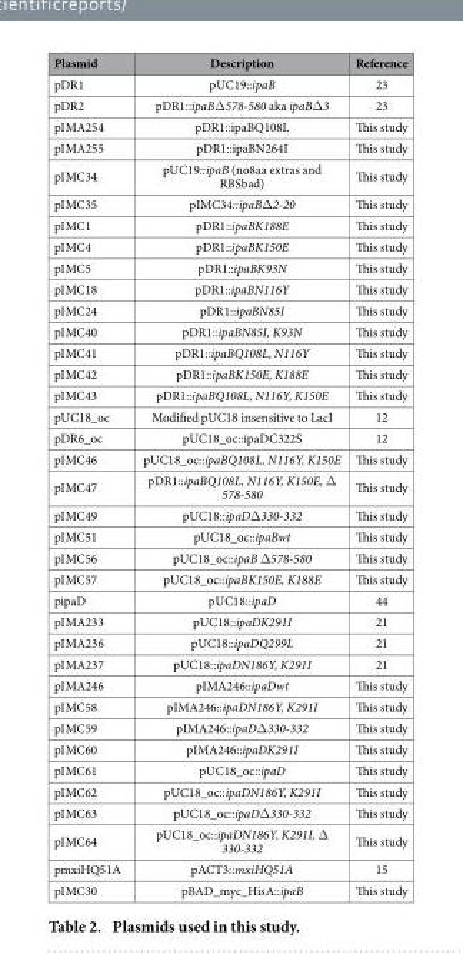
<table><thead><tr><td>Plasmid</td><td>Description</td><td>Reference</td></tr></thead><tbody><tr><td>pDR1</td><td>pUC19::ipaB</td><td>23</td></tr><tr><td>pDR2</td><td>pDR1::ipaBΔ 578-580 aka ipaBΔ 3</td><td>23</td></tr><tr><td>pIMA254</td><td>pDR1::ipaBQ108L</td><td>This study</td></tr><tr><td>pIMA255</td><td>pDR1::ipaBN264I</td><td>This study</td></tr><tr><td>pIMC34</td><td>pUC19::ipaB (no8aa extras and RBSbad)</td><td>This study</td></tr><tr><td>pIMC35</td><td>pIMC34::ipaBΔ 2-20</td><td>This study</td></tr><tr><td>pIMC1</td><td>pDR1::ipaBK188E</td><td>This study</td></tr><tr><td>pIMC4</td><td>pDR1::ipaBK150E</td><td>This study</td></tr><tr><td>pIMC5</td><td>pDR1::ipaBK93N</td><td>This study</td></tr><tr><td>pIMC18</td><td>pDR1::ipaBN116Y</td><td>This study</td></tr><tr><td>pIMC24</td><td>pDR1::ipaBN85I</td><td>This study</td></tr><tr><td>pIMC40</td><td>pDR1::ipaBN85I, K93N</td><td>This study</td></tr><tr><td>pIMC41</td><td>pDR1::ipaBQ108L, N116Y</td><td>This study</td></tr><tr><td>pIMC42</td><td>pDR1::ipaBK150E, K188E</td><td>This study</td></tr><tr><td>pIMC43</td><td>pDR1::ipaBQ108L, N116Y, K150E</td><td>This study</td></tr><tr><td>pUC18_oc</td><td>Modified pUC18 insensitive to LacI</td><td>12</td></tr><tr><td>pDR6_oc</td><td>pUC18_oc::ipaDC322S</td><td>12</td></tr><tr><td>pIMC46</td><td>pUC18_oc::ipaBQ108L, N116Y, K150E</td><td>This study</td></tr><tr><td>pIMC47</td><td>pDR1::ipaBQ108L, N116Y, K150E, Δ 578-580</td><td>This study</td></tr><tr><td>pIMC49</td><td>pUC18::ipaDΔ 330-332</td><td>This study</td></tr><tr><td>pIMC51</td><td>pUC18_oc::ipaBwt</td><td>This study</td></tr><tr><td>pIMC56</td><td>pUC18_oc::ipaB Δ 578-580</td><td>This study</td></tr><tr><td>pIMC57</td><td>pUC18_oc::ipaBK150E, K188E</td><td>This study</td></tr><tr><td>pipaD</td><td>pUC18::ipaD</td><td>44</td></tr><tr><td>pIMA233</td><td>pUC18::ipaDK291I</td><td>21</td></tr><tr><td>pIMA236</td><td>pUC18::ipaDQ299L</td><td>21</td></tr><tr><td>pIMA237</td><td>pUC18::ipaDN186Y, K291I</td><td>21</td></tr><tr><td>pIMA246</td><td>pIMA246::ipaDwt</td><td>This study</td></tr><tr><td>pIMC58</td><td>pIMA246::ipaDN186Y, K291I</td><td>This study</td></tr><tr><td>pIMC59</td><td>pIMA246::ipaDΔ 330-332</td><td>This study</td></tr><tr><td>pIMC60</td><td>pIMA246::ipaDK291I</td><td>This study</td></tr><tr><td>pIMC61</td><td>pUC18_oc::ipaD</td><td>This study</td></tr><tr><td>pIMC62</td><td>pUC18_oc::ipaDN186Y, K291I</td><td>This study</td></tr><tr><td>pIMC63</td><td>pUC18_oc::ipaDΔ 330-332</td><td>This study</td></tr><tr><td>pIMC64</td><td>pUC18_oc::ipaDN186Y, K291I, Δ 330-332</td><td>This study</td></tr><tr><td>pmxiHQ51A</td><td>pACT3::mxiHQ51A</td><td>15</td></tr><tr><td>pIMC30</td><td>pBAD_myc_HisA::ipaB</td><td>This study</td></tr></tbody></table>